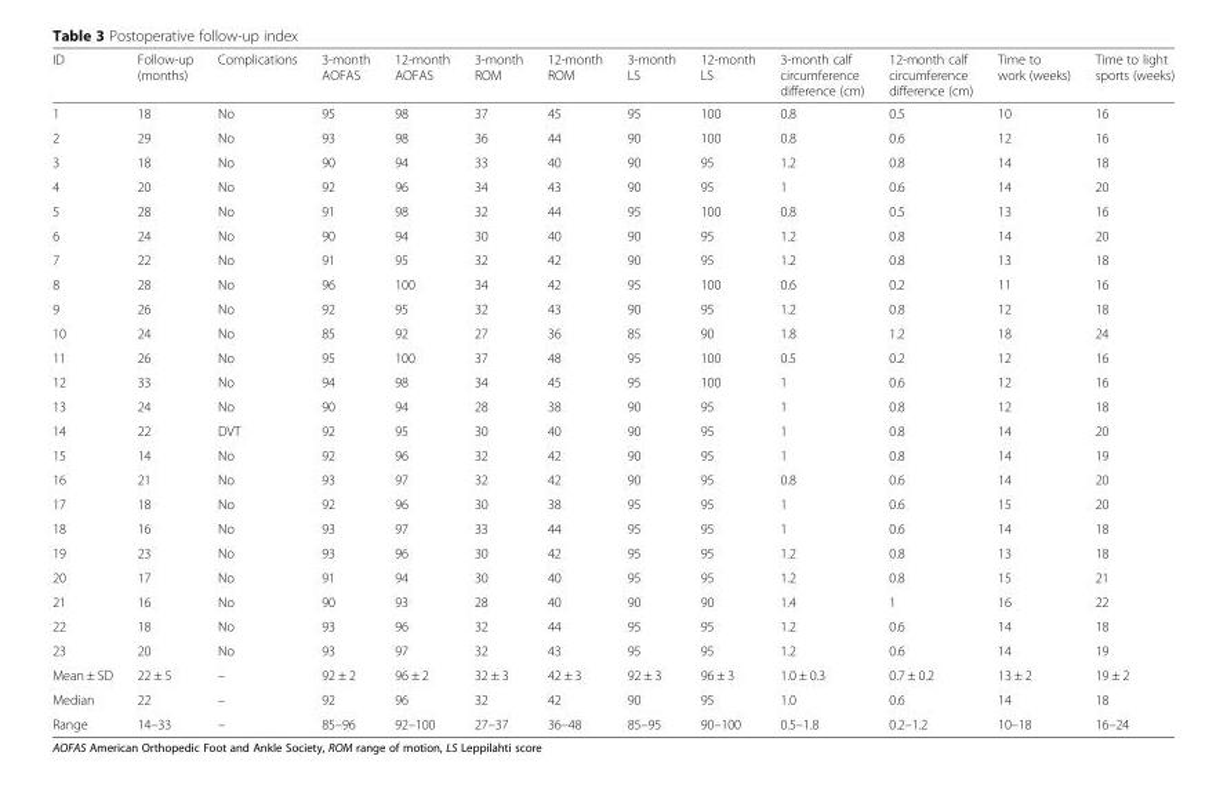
<table><thead><tr><td>ID</td><td>Follow-up (months)</td><td>Complications</td><td>3-month AOFAS</td><td>12-month AOFAS</td><td>3-month ROM</td><td>12-month ROM</td><td>3-month LS</td><td>12-month LS</td><td>3-month calf circumference difference (cm)</td><td>12-month calf circumference difference (cm)</td><td>Time to work (weeks)</td><td>Time to light sports (weeks)</td></tr></thead><tbody><tr><td>1</td><td>18</td><td>No</td><td>95</td><td>98</td><td>37</td><td>45</td><td>95</td><td>100</td><td>0.8</td><td>0.5</td><td>10</td><td>16</td></tr><tr><td>2</td><td>29</td><td>No</td><td>93</td><td>98</td><td>36</td><td>44</td><td>90</td><td>100</td><td>0.8</td><td>0.6</td><td>12</td><td>16</td></tr><tr><td>3</td><td>18</td><td>No</td><td>90</td><td>94</td><td>33</td><td>40</td><td>90</td><td>95</td><td>1.2</td><td>0.8</td><td>14</td><td>18</td></tr><tr><td>4</td><td>20</td><td>No</td><td>92</td><td>96</td><td>34</td><td>43</td><td>90</td><td>95</td><td>1</td><td>0.6</td><td>14</td><td>20</td></tr><tr><td>5</td><td>28</td><td>No</td><td>91</td><td>98</td><td>32</td><td>44</td><td>95</td><td>100</td><td>0.8</td><td>0.5</td><td>13</td><td>16</td></tr><tr><td>6</td><td>24</td><td>No</td><td>90</td><td>94</td><td>30</td><td>40</td><td>90</td><td>95</td><td>1.2</td><td>0.8</td><td>14</td><td>20</td></tr><tr><td>7</td><td>22</td><td>No</td><td>91</td><td>95</td><td>32</td><td>42</td><td>90</td><td>95</td><td>1.2</td><td>0.8</td><td>13</td><td>18</td></tr><tr><td>8</td><td>28</td><td>No</td><td>96</td><td>100</td><td>34</td><td>42</td><td>95</td><td>100</td><td>0.6</td><td>0.2</td><td>11</td><td>16</td></tr><tr><td>9</td><td>26</td><td>No</td><td>92</td><td>95</td><td>32</td><td>43</td><td>90</td><td>95</td><td>1.2</td><td>0.8</td><td>12</td><td>18</td></tr><tr><td>10</td><td>24</td><td>No</td><td>85</td><td>92</td><td>27</td><td>36</td><td>85</td><td>90</td><td>1.8</td><td>1.2</td><td>18</td><td>24</td></tr><tr><td>11</td><td>26</td><td>No</td><td>95</td><td>100</td><td>37</td><td>48</td><td>95</td><td>100</td><td>0.5</td><td>0.2</td><td>12</td><td>16</td></tr><tr><td>12</td><td>33</td><td>No</td><td>94</td><td>98</td><td>34</td><td>45</td><td>95</td><td>100</td><td>1</td><td>0.6</td><td>12</td><td>16</td></tr><tr><td>13</td><td>24</td><td>No</td><td>90</td><td>94</td><td>28</td><td>38</td><td>90</td><td>95</td><td>1</td><td>0.8</td><td>12</td><td>18</td></tr><tr><td>14</td><td>22</td><td>DVT</td><td>92</td><td>95</td><td>30</td><td>40</td><td>90</td><td>95</td><td>1</td><td>0.8</td><td>14</td><td>20</td></tr><tr><td>15</td><td>14</td><td>No</td><td>92</td><td>96</td><td>32</td><td>42</td><td>90</td><td>95</td><td>1</td><td>0.8</td><td>14</td><td>19</td></tr><tr><td>16</td><td>21</td><td>No</td><td>93</td><td>97</td><td>32</td><td>42</td><td>90</td><td>95</td><td>0.8</td><td>0.6</td><td>14</td><td>20</td></tr><tr><td>17</td><td>18</td><td>No</td><td>92</td><td>96</td><td>30</td><td>38</td><td>95</td><td>95</td><td>1</td><td>0.6</td><td>15</td><td>20</td></tr><tr><td>18</td><td>16</td><td>No</td><td>93</td><td>97</td><td>33</td><td>44</td><td>95</td><td>95</td><td>1</td><td>0.6</td><td>14</td><td>18</td></tr><tr><td>19</td><td>23</td><td>No</td><td>93</td><td>96</td><td>30</td><td>42</td><td>95</td><td>95</td><td>1.2</td><td>0.8</td><td>13</td><td>18</td></tr><tr><td>20</td><td>17</td><td>No</td><td>91</td><td>94</td><td>30</td><td>40</td><td>95</td><td>95</td><td>1.2</td><td>0.8</td><td>15</td><td>21</td></tr><tr><td>21</td><td>16</td><td>No</td><td>90</td><td>93</td><td>28</td><td>40</td><td>90</td><td>90</td><td>1.4</td><td>1</td><td>16</td><td>22</td></tr><tr><td>22</td><td>18</td><td>No</td><td>93</td><td>96</td><td>32</td><td>44</td><td>95</td><td>95</td><td>1.2</td><td>0.6</td><td>14</td><td>18</td></tr><tr><td>23</td><td>20</td><td>No</td><td>93</td><td>97</td><td>32</td><td>43</td><td>95</td><td>95</td><td>1.2</td><td>0.6</td><td>14</td><td>19</td></tr><tr><td>Mean ± SD</td><td>22 ± 5</td><td>–</td><td>92 ± 2</td><td>96 ± 2</td><td>32 ± 3</td><td>42 ± 3</td><td>92 ± 3</td><td>96 ± 3</td><td>1.0 ± 0.3</td><td>0.7 ± 0.2</td><td>13 ± 2</td><td>19 ± 2</td></tr><tr><td>Median</td><td>22</td><td>–</td><td>92</td><td>96</td><td>32</td><td>42</td><td>90</td><td>95</td><td>1.0</td><td>0.6</td><td>14</td><td>18</td></tr><tr><td>Range</td><td>14–33</td><td>–</td><td>85–96</td><td>92–100</td><td>27–37</td><td>36–48</td><td>85–95</td><td>90–100</td><td>0.5–1.8</td><td>0.2–1.2</td><td>10–18</td><td>16–24</td></tr></tbody></table>